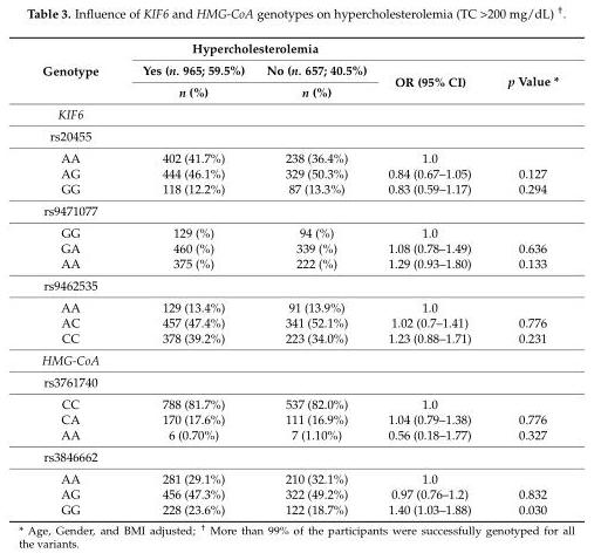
<table><thead><tr><td rowspan="3">Genotype</td><td colspan="2">Hypercholesterolemia</td><td rowspan="3">OR (95% CI)</td><td rowspan="3">p Value *</td></tr><tr><td rowspan="2">Yes (n. 965; 59.5%) n (%)</td><td rowspan="2">No (n. 657; 40.5%) n (%)</td></tr><tr></tr></thead><tbody><tr><td colspan="5">KIF6</td></tr><tr><td colspan="5">rs20455</td></tr><tr><td>AA</td><td>402 (41.7%)</td><td>238 (36.4%)</td><td>1.0</td><td></td></tr><tr><td>AG</td><td>444 (46.1%)</td><td>329 (50.3%)</td><td>0.84 (0.67–1.05)</td><td>0.127</td></tr><tr><td>GG</td><td>118 (12.2%)</td><td>87 (13.3%)</td><td>0.83 (0.59–1.17)</td><td>0.294</td></tr><tr><td colspan="5">rs9471077</td></tr><tr><td>GG</td><td>129 (%)</td><td>94 (%)</td><td>1.0</td><td></td></tr><tr><td>GA</td><td>460 (%)</td><td>339 (%)</td><td>1.08 (0.78–1.49)</td><td>0.636</td></tr><tr><td>AA</td><td>375 (%)</td><td>222 (%)</td><td>1.29 (0.93–1.80)</td><td>0.133</td></tr><tr><td colspan="5">rs9462535</td></tr><tr><td>AA</td><td>129 (13.4%)</td><td>91 (13.9%)</td><td>1.0</td><td></td></tr><tr><td>AC</td><td>457 (47.4%)</td><td>341 (52.1%)</td><td>1.02 (0.7–1.41)</td><td>0.776</td></tr><tr><td>CC</td><td>378 (39.2%)</td><td>223 (34.0%)</td><td>1.23 (0.88–1.71)</td><td>0.231</td></tr><tr><td colspan="5">HMG-CoA</td></tr><tr><td colspan="5">rs3761740</td></tr><tr><td>CC</td><td>788 (81.7%)</td><td>537 (82.0%)</td><td>1.0</td><td></td></tr><tr><td>CA</td><td>170 (17.6%)</td><td>111 (16.9%)</td><td>1.04 (0.79–1.38)</td><td>0.776</td></tr><tr><td>AA</td><td>6 (0.70%)</td><td>7 (1.10%)</td><td>0.56 (0.18–1.77)</td><td>0.327</td></tr><tr><td colspan="5">rs3846662</td></tr><tr><td>AA</td><td>281 (29.1%)</td><td>210 (32.1%)</td><td>1.0</td><td></td></tr><tr><td>AG</td><td>456 (47.3%)</td><td>322 (49.2%)</td><td>0.97 (0.76–1.2)</td><td>0.832</td></tr><tr><td>GG</td><td>228 (23.6%)</td><td>122 (18.7%)</td><td>1.40 (1.03–1.88)</td><td>0.030</td></tr></tbody></table>